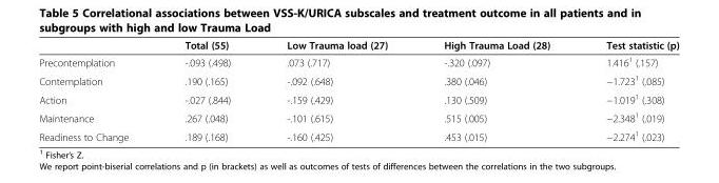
<table><thead><tr><td></td><td>Total (55)</td><td>Low Trauma load (27)</td><td>High Trauma Load (28)</td><td>Test statistic (p)</td></tr></thead><tbody><tr><td>Precontemplation</td><td>-.093 (.498)</td><td>.073 (.717)</td><td>-.320 (.097)</td><td>1.416<sup>1</sup> (.157)</td></tr><tr><td>Contemplation</td><td>.190 (.165)</td><td>-.092 (.648)</td><td>.380 (.046)</td><td>−1.723<sup>1</sup> (.085)</td></tr><tr><td>Action</td><td>-.027 (.844)</td><td>-.159 (.429)</td><td>.130 (.509)</td><td>−1.019<sup>1</sup> (.308)</td></tr><tr><td>Maintenance</td><td>.267 (.048)</td><td>-.101 (.615)</td><td>.515 (.005)</td><td>−2.348<sup>1</sup> (.019)</td></tr><tr><td>Readiness to Change</td><td>.189 (.168)</td><td>-.160 (.425)</td><td>.453 (.015)</td><td>−2.274<sup>1</sup> (.023)</td></tr></tbody></table>